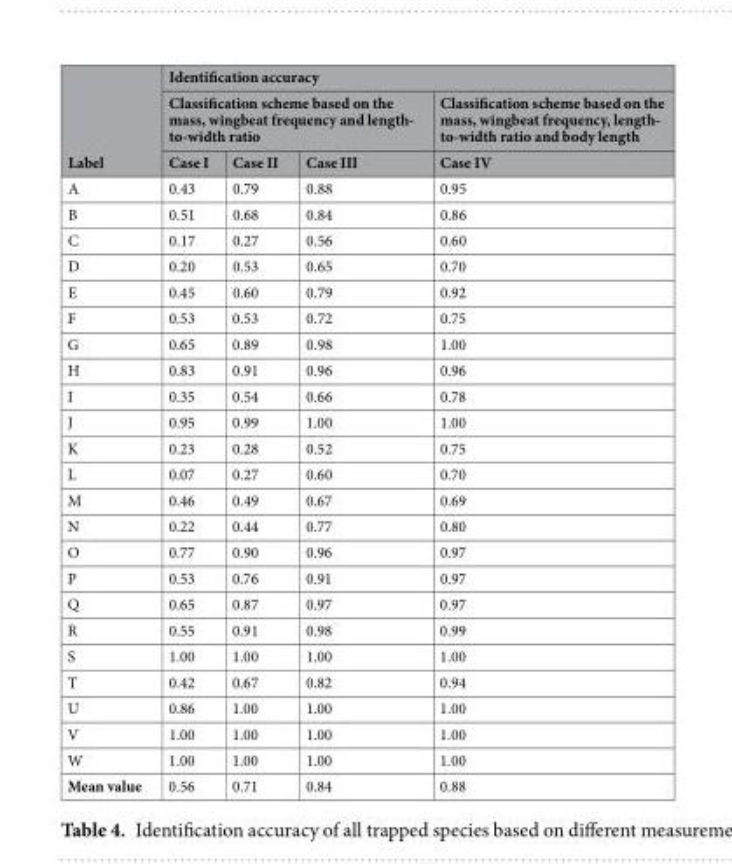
<table><thead><tr><td rowspan="3">Label</td><td colspan="4">Identification accuracy</td></tr><tr><td colspan="3">Classification scheme based on the mass, wingbeat frequency and length- to-width ratio</td><td rowspan="2">Classification scheme based on the mass, wingbeat frequency, length- to-width ratio and body length Case IV</td></tr><tr><td>Case I</td><td>Case II</td><td>Case III</td></tr></thead><tbody><tr><td>A</td><td>0.43</td><td>0.79</td><td>0.88</td><td>0.95</td></tr><tr><td>B</td><td>0.51</td><td>0.68</td><td>0.84</td><td>0.86</td></tr><tr><td>C</td><td>0.17</td><td>0.27</td><td>0.56</td><td>0.60</td></tr><tr><td>D</td><td>0.20</td><td>0.53</td><td>0.65</td><td>0.70</td></tr><tr><td>E</td><td>0.45</td><td>0.60</td><td>0.79</td><td>0.92</td></tr><tr><td>F</td><td>0.53</td><td>0.53</td><td>0.72</td><td>0.75</td></tr><tr><td>G</td><td>0.65</td><td>0.89</td><td>0.98</td><td>1.00</td></tr><tr><td>H</td><td>0.83</td><td>0.91</td><td>0.96</td><td>0.96</td></tr><tr><td>I</td><td>0.35</td><td>0.54</td><td>0.66</td><td>0.78</td></tr><tr><td>J</td><td>0.95</td><td>0.99</td><td>1.00</td><td>1.00</td></tr><tr><td>K</td><td>0.23</td><td>0.28</td><td>0.52</td><td>0.75</td></tr><tr><td>L</td><td>0.07</td><td>0.27</td><td>0.60</td><td>0.70</td></tr><tr><td>M</td><td>0.46</td><td>0.49</td><td>0.67</td><td>0.69</td></tr><tr><td>N</td><td>0.22</td><td>0.44</td><td>0.77</td><td>0.80</td></tr><tr><td>O</td><td>0.77</td><td>0.90</td><td>0.96</td><td>0.97</td></tr><tr><td>P</td><td>0.53</td><td>0.76</td><td>0.91</td><td>0.97</td></tr><tr><td>Q</td><td>0.65</td><td>0.87</td><td>0.97</td><td>0.97</td></tr><tr><td>R</td><td>0.55</td><td>0.91</td><td>0.98</td><td>0.99</td></tr><tr><td>S</td><td>1.00</td><td>1.00</td><td>1.00</td><td>1.00</td></tr><tr><td>T</td><td>0.42</td><td>0.67</td><td>0.82</td><td>0.94</td></tr><tr><td>U</td><td>0.86</td><td>1.00</td><td>1.00</td><td>1.00</td></tr><tr><td>V</td><td>1.00</td><td>1.00</td><td>1.00</td><td>1.00</td></tr><tr><td>W</td><td>1.00</td><td>1.00</td><td>1.00</td><td>1.00</td></tr><tr><td>Mean value</td><td>0.56</td><td>0.71</td><td>0.84</td><td>0.88</td></tr></tbody></table>